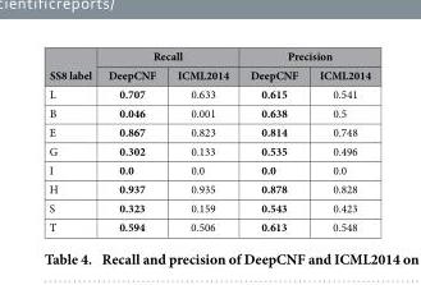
<table><thead><tr><td rowspan="2">SS8 label</td><td colspan="2">Recall</td><td colspan="2">Precision</td></tr><tr><td>DeepCNF</td><td>ICML2014</td><td>DeepCNF</td><td>ICML2014</td></tr></thead><tbody><tr><td>L</td><td>0.707</td><td>0.633</td><td>0.615</td><td>0.541</td></tr><tr><td>B</td><td>0.046</td><td>0.001</td><td>0.638</td><td>0.5</td></tr><tr><td>E</td><td>0.867</td><td>0.823</td><td>0.814</td><td>0.748</td></tr><tr><td>G</td><td>0.302</td><td>0.133</td><td>0.535</td><td>0.496</td></tr><tr><td>I</td><td>0.0</td><td>0.0</td><td>0.0</td><td>0.0</td></tr><tr><td>H</td><td>0.937</td><td>0.935</td><td>0.878</td><td>0.828</td></tr><tr><td>S</td><td>0.323</td><td>0.159</td><td>0.543</td><td>0.423</td></tr><tr><td>T</td><td>0.594</td><td>0.506</td><td>0.613</td><td>0.548</td></tr></tbody></table>